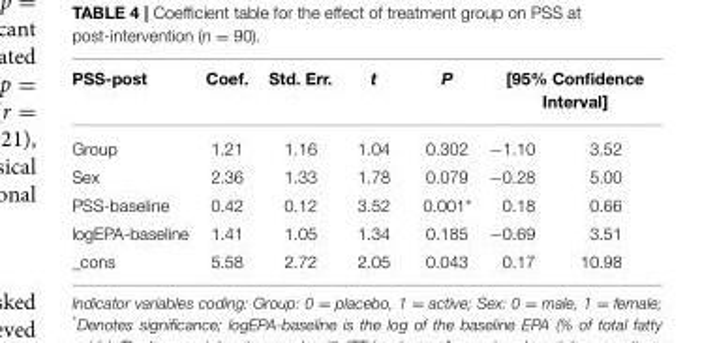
<table><thead><tr><td rowspan="2">PSS-post Group</td><td rowspan="2">Coef. 1.21</td><td rowspan="2">Std. Err. 1.16</td><td rowspan="2">t 1.04</td><td rowspan="2">P 0.302</td><td colspan="2">[95% Confidence Interval]</td></tr><tr><td>−1.10</td><td>3.52</td></tr></thead><tbody><tr><td>Sex</td><td>2.36</td><td>1.33</td><td>1.78</td><td>0.079</td><td>−0.28</td><td>5.00</td></tr><tr><td>PSS-baseline</td><td>0.42</td><td>0.12</td><td>3.52</td><td>0.001*</td><td>0.18</td><td>0.66</td></tr><tr><td>logEPA-baseline</td><td>1.41</td><td>1.05</td><td>1.34</td><td>0.185</td><td>−0.69</td><td>3.51</td></tr><tr><td>_cons</td><td>5.58</td><td>2.72</td><td>2.05</td><td>0.043</td><td>0.17</td><td>10.98</td></tr></tbody></table>